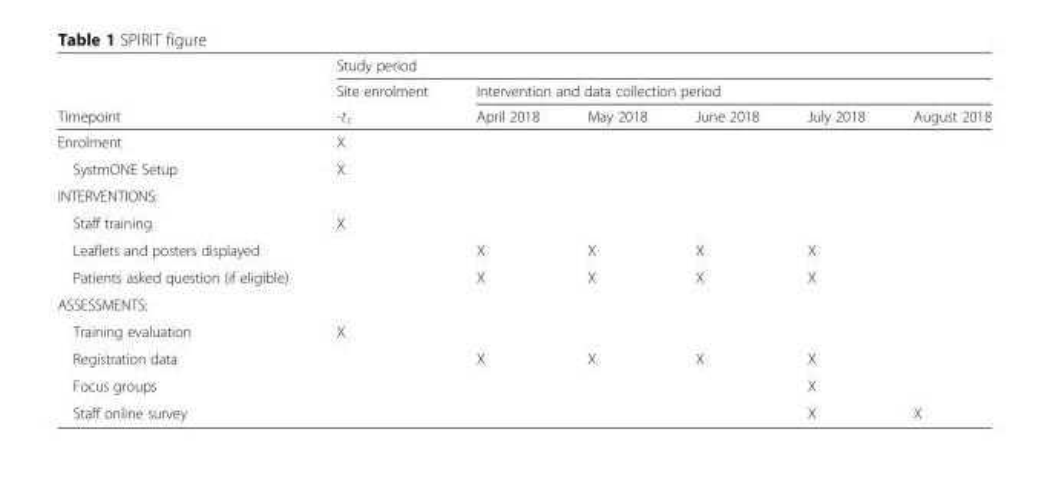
<table><thead><tr><td rowspan="3">Timepoint</td><td colspan="6">Study period</td></tr><tr><td rowspan="2">Site enrolment -t<sub>1</sub></td><td colspan="5">Intervention and data collection period</td></tr><tr><td>April 2018</td><td>May 2018</td><td>June 2018</td><td>July 2018</td><td>August 2018</td></tr></thead><tbody><tr><td>Enrolment</td><td>X</td><td></td><td></td><td></td><td></td><td></td></tr><tr><td>SystmONE Setup</td><td>X</td><td></td><td></td><td></td><td></td><td></td></tr><tr><td colspan="7">INTERVENTIONS:</td></tr><tr><td>Staff training</td><td>X</td><td></td><td></td><td></td><td></td><td></td></tr><tr><td>Leaflets and posters displayed</td><td></td><td>X</td><td>X</td><td>X</td><td>X</td><td></td></tr><tr><td>Patients asked question (if eligible)</td><td></td><td>X</td><td>X</td><td>X</td><td>X</td><td></td></tr><tr><td colspan="7">ASSESSMENTS:</td></tr><tr><td>Training evaluation</td><td>X</td><td></td><td></td><td></td><td></td><td></td></tr><tr><td>Registration data</td><td></td><td>X</td><td>X</td><td>X</td><td>X</td><td></td></tr><tr><td>Focus groups</td><td></td><td></td><td></td><td></td><td>X</td><td></td></tr><tr><td>Staff online survey</td><td></td><td></td><td></td><td></td><td>X</td><td>X</td></tr></tbody></table>